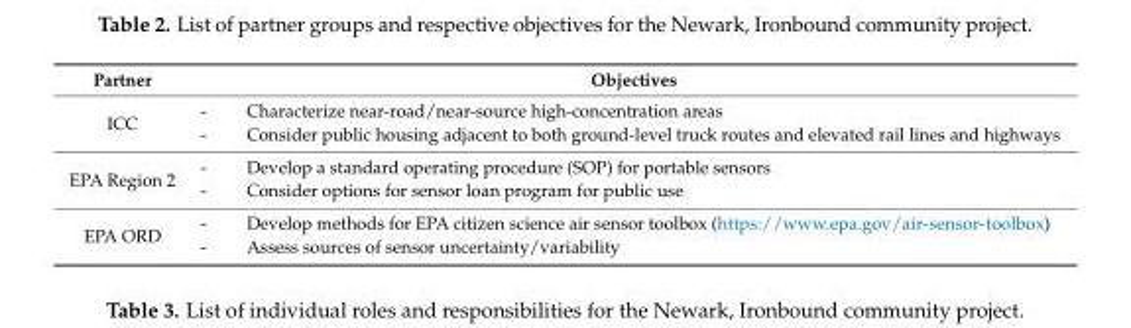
<table><thead><tr><td>Partner</td><td>Objectives</td></tr></thead><tbody><tr><td>ICC</td><td>- Characterize near-road/near-source high-concentration areas - Consider public housing adjacent to both ground-level truck routes and elevated rail lines and highways</td></tr><tr><td>EPA Region 2</td><td>- Develop a standard operating procedure (SOP) for portable sensors - Consider options for sensor loan program for public use</td></tr><tr><td>EPA ORD</td><td>- Develop methods for EPA citizen science air sensor toolbox (https://www.epa.gov/air-sensor-toolbox) - Assess sources of sensor uncertainty/variability</td></tr></tbody></table>